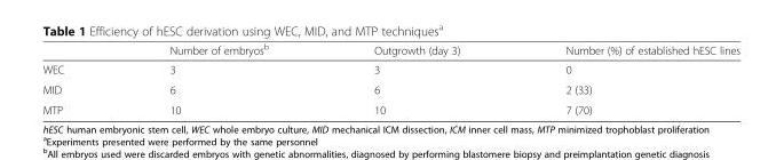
<table><thead><tr><td></td><td>Number of embryos<sup>b</sup></td><td>Outgrowth (day 3)</td><td>Number (%) of established hESC lines</td></tr></thead><tbody><tr><td>WEC</td><td>3</td><td>3</td><td>0</td></tr><tr><td>MID</td><td>6</td><td>6</td><td>2 (33)</td></tr><tr><td>MTP</td><td>10</td><td>10</td><td>7 (70)</td></tr></tbody></table>